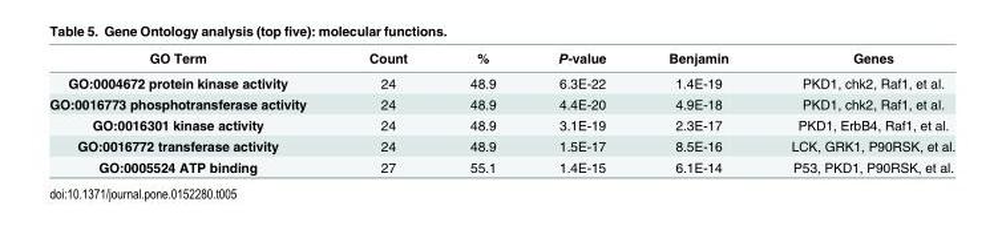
<table><thead><tr><td>GO Term</td><td>Count</td><td>%</td><td>P-value</td><td>Benjamin</td><td>Genes</td></tr></thead><tbody><tr><td>GO:0004672 protein kinase activity</td><td>24</td><td>48.9</td><td>6.3E-22</td><td>1.4E-19</td><td>PKD1, chk2, Raf1, et al.</td></tr><tr><td>GO:0016773 phosphotransferase activity</td><td>24</td><td>48.9</td><td>4.4E-20</td><td>4.9E-18</td><td>PKD1, chk2, Raf1, et al.</td></tr><tr><td>GO:0016301 kinase activity</td><td>24</td><td>48.9</td><td>3.1E-19</td><td>2.3E-17</td><td>PKD1, ErbB4, Raf1, et al.</td></tr><tr><td>GO:0016772 transferase activity</td><td>24</td><td>48.9</td><td>1.5E-17</td><td>8.5E-16</td><td>LCK, GRK1, P90RSK, et al.</td></tr><tr><td>GO:0005524 ATP binding</td><td>27</td><td>55.1</td><td>1.4E-15</td><td>6.1E-14</td><td>P53, PKD1, P90RSK, et al.</td></tr></tbody></table>